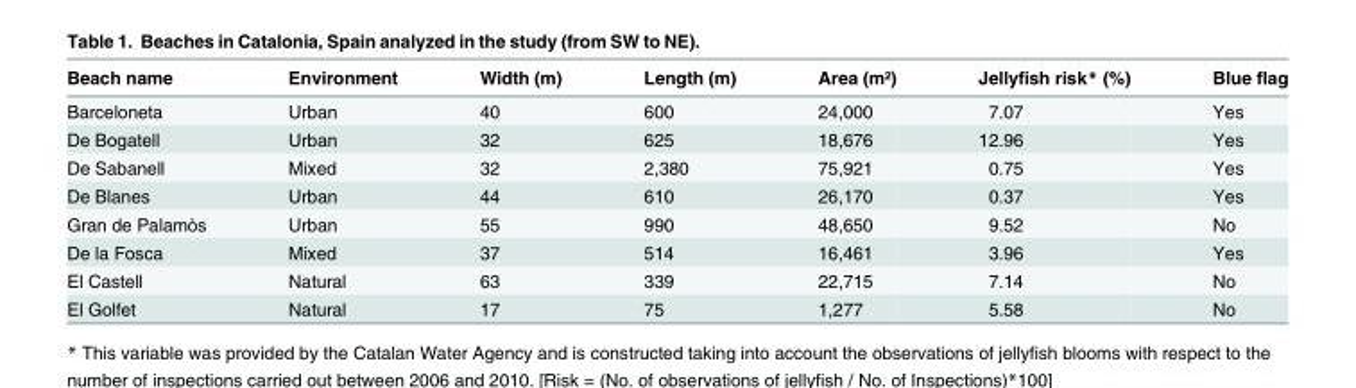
<table><thead><tr><td>Beach name</td><td>Environment</td><td>Width (m)</td><td>Length (m)</td><td>Area (m²)</td><td>Jellyfish risk* (%)</td><td>Blue flag</td></tr></thead><tbody><tr><td>Barceloneta</td><td>Urban</td><td>40</td><td>600</td><td>24,000</td><td>7.07</td><td>Yes</td></tr><tr><td>De Bogatell</td><td>Urban</td><td>32</td><td>625</td><td>18,676</td><td>12.96</td><td>Yes</td></tr><tr><td>De Sabanell</td><td>Mixed</td><td>32</td><td>2,380</td><td>75,921</td><td>0.75</td><td>Yes</td></tr><tr><td>De Blanes</td><td>Urban</td><td>44</td><td>610</td><td>26,170</td><td>0.37</td><td>Yes</td></tr><tr><td>Gran de Palamòs</td><td>Urban</td><td>55</td><td>990</td><td>48,650</td><td>9.52</td><td>No</td></tr><tr><td>De la Fosca</td><td>Mixed</td><td>37</td><td>514</td><td>16,461</td><td>3.96</td><td>Yes</td></tr><tr><td>El Castell</td><td>Natural</td><td>63</td><td>339</td><td>22,715</td><td>7.14</td><td>No</td></tr><tr><td>El Golfet</td><td>Natural</td><td>17</td><td>75</td><td>1,277</td><td>5.58</td><td>No</td></tr></tbody></table>